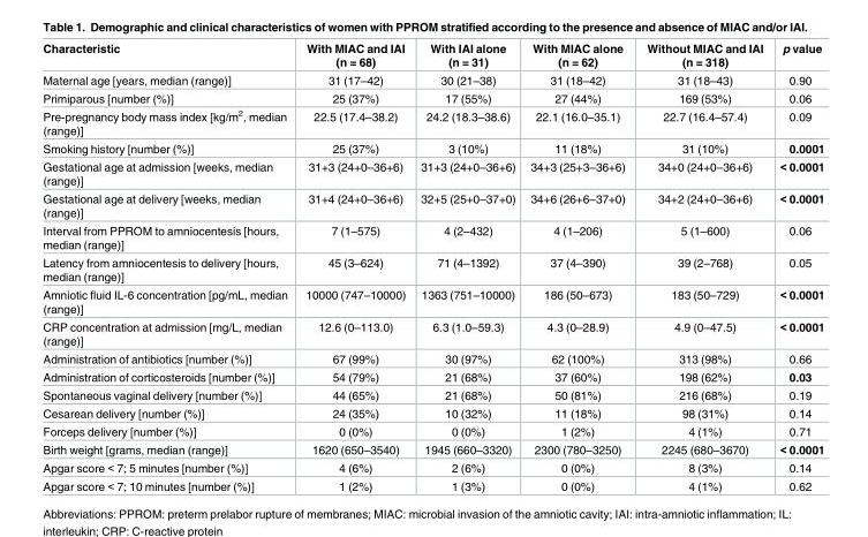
<table><thead><tr><td>Characteristic</td><td>With MIAC and IAI (n = 68)</td><td>With IAI alone (n = 31)</td><td>With MIAC alone (n = 62)</td><td>Without MIAC and IAI (n = 318)</td><td>p value</td></tr></thead><tbody><tr><td>Maternal age [years, median (range)]</td><td>31 (17–42)</td><td>30 (21–38)</td><td>31 (18–42)</td><td>31 (18–43)</td><td>0.90</td></tr><tr><td>Primiparous [number (%)]</td><td>25 (37%)</td><td>17 (55%)</td><td>27 (44%)</td><td>169 (53%)</td><td>0.06</td></tr><tr><td>Pre-pregnancy body mass index [kg/m<sup>2</sup>, median (range)]</td><td>22.5 (17.4–38.2)</td><td>24.2 (18.3–38.6)</td><td>22.1 (16.0–35.1)</td><td>22.7 (16.4–57.4)</td><td>0.09</td></tr><tr><td>Smoking history [number (%)]</td><td>25 (37%)</td><td>3 (10%)</td><td>11 (18%)</td><td>31 (10%)</td><td>0.0001</td></tr><tr><td>Gestational age at admission [weeks, median (range)]</td><td>31+3 (24+0–36+6)</td><td>31+3 (24+0–36+6)</td><td>34+3 (25+3–36+6)</td><td>34+0 (24+0–36+6)</td><td>&lt; 0.0001</td></tr><tr><td>Gestational age at delivery [weeks, median (range)]</td><td>31+4 (24+0–36+6)</td><td>32+5 (25+0–37+0)</td><td>34+6 (26+6–37+0)</td><td>34+2 (24+0–36+6)</td><td>&lt; 0.0001</td></tr><tr><td>Interval from PPROM to amniocentesis [hours, median (range)]</td><td>7 (1–575)</td><td>4 (2–432)</td><td>4 (1–206)</td><td>5 (1–600)</td><td>0.06</td></tr><tr><td>Latency from amniocentesis to delivery [hours, median (range)]</td><td>45 (3–624)</td><td>71 (4–1392)</td><td>37 (4–390)</td><td>39 (2–768)</td><td>0.05</td></tr><tr><td>Amniotic fluid IL-6 concentration [pg/mL, median (range)]</td><td>10000 (747–10000)</td><td>1363 (751–10000)</td><td>186 (50–673)</td><td>183 (50–729)</td><td>&lt; 0.0001</td></tr><tr><td>CRP concentration at admission [mg/L, median (range)]</td><td>12.6 (0–113.0)</td><td>6.3 (1.0–59.3)</td><td>4.3 (0–28.9)</td><td>4.9 (0–47.5)</td><td>&lt; 0.0001</td></tr><tr><td>Administration of antibiotics [number (%)]</td><td>67 (99%)</td><td>30 (97%)</td><td>62 (100%)</td><td>313 (98%)</td><td>0.66</td></tr><tr><td>Administration of corticosteroids [number (%)]</td><td>54 (79%)</td><td>21 (68%)</td><td>37 (60%)</td><td>198 (62%)</td><td>0.03</td></tr><tr><td>Spontaneous vaginal delivery [number (%)]</td><td>44 (65%)</td><td>21 (68%)</td><td>50 (81%)</td><td>216 (68%)</td><td>0.19</td></tr><tr><td>Cesarean delivery [number (%)]</td><td>24 (35%)</td><td>10 (32%)</td><td>11 (18%)</td><td>98 (31%)</td><td>0.14</td></tr><tr><td>Forceps delivery [number (%)]</td><td>0 (0%)</td><td>0 (0%)</td><td>1 (2%)</td><td>4 (1%)</td><td>0.71</td></tr><tr><td>Birth weight [grams, median (range)]</td><td>1620 (650–3540)</td><td>1945 (660–3320)</td><td>2300 (780–3250)</td><td>2245 (680–3670)</td><td>&lt; 0.0001</td></tr><tr><td>Apgar score &lt; 7; 5 minutes [number (%)]</td><td>4 (6%)</td><td>2 (6%)</td><td>0 (0%)</td><td>8 (3%)</td><td>0.14</td></tr><tr><td>Apgar score &lt; 7; 10 minutes [number (%)]</td><td>1 (2%)</td><td>1 (3%)</td><td>0 (0%)</td><td>4 (1%)</td><td>0.62</td></tr></tbody></table>